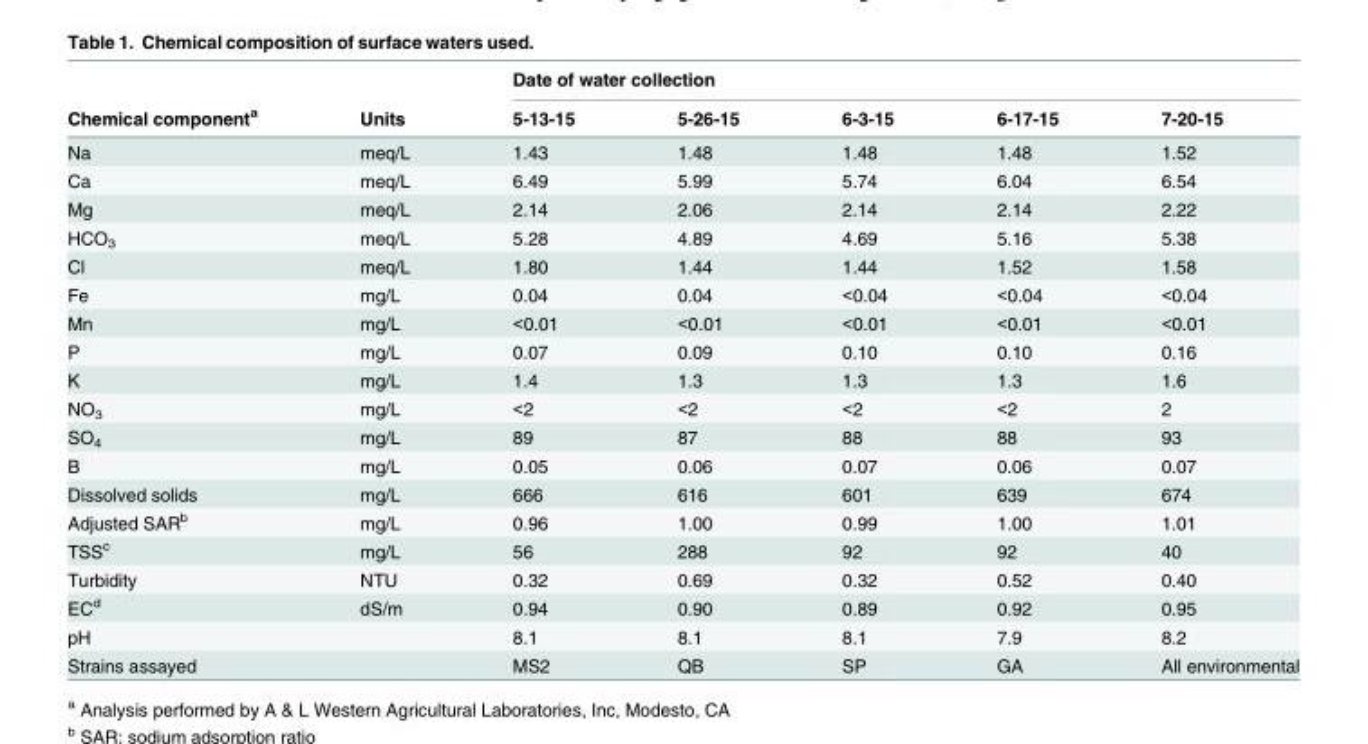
<table><thead><tr><td rowspan="2">Chemical component<sup>a</sup></td><td rowspan="2">Units</td><td colspan="5">Date of water collection</td></tr><tr><td>5-13-15</td><td>5-26-15</td><td>6-3-15</td><td>6-17-15</td><td>7-20-15</td></tr></thead><tbody><tr><td>Na</td><td>meq/L</td><td>1.43</td><td>1.48</td><td>1.48</td><td>1.48</td><td>1.52</td></tr><tr><td>Ca</td><td>meq/L</td><td>6.49</td><td>5.99</td><td>5.74</td><td>6.04</td><td>6.54</td></tr><tr><td>Mg</td><td>meq/L</td><td>2.14</td><td>2.06</td><td>2.14</td><td>2.14</td><td>2.22</td></tr><tr><td>HCO<sub>3</sub></td><td>meq/L</td><td>5.28</td><td>4.89</td><td>4.69</td><td>5.16</td><td>5.38</td></tr><tr><td>Cl</td><td>meq/L</td><td>1.80</td><td>1.44</td><td>1.44</td><td>1.52</td><td>1.58</td></tr><tr><td>Fe</td><td>mg/L</td><td>0.04</td><td>0.04</td><td>&lt;0.04</td><td>&lt;0.04</td><td>&lt;0.04</td></tr><tr><td>Mn</td><td>mg/L</td><td>&lt;0.01</td><td>&lt;0.01</td><td>&lt;0.01</td><td>&lt;0.01</td><td>&lt;0.01</td></tr><tr><td>P</td><td>mg/L</td><td>0.07</td><td>0.09</td><td>0.10</td><td>0.10</td><td>0.16</td></tr><tr><td>K</td><td>mg/L</td><td>1.4</td><td>1.3</td><td>1.3</td><td>1.3</td><td>1.6</td></tr><tr><td>NO<sub>3</sub></td><td>mg/L</td><td>&lt;2</td><td>&lt;2</td><td>&lt;2</td><td>&lt;2</td><td>2</td></tr><tr><td>SO<sub>4</sub></td><td>mg/L</td><td>89</td><td>87</td><td>88</td><td>88</td><td>93</td></tr><tr><td>B</td><td>mg/L</td><td>0.05</td><td>0.06</td><td>0.07</td><td>0.06</td><td>0.07</td></tr><tr><td>Dissolved solids</td><td>mg/L</td><td>666</td><td>616</td><td>601</td><td>639</td><td>674</td></tr><tr><td>Adjusted SAR<sup>b</sup></td><td>mg/L</td><td>0.96</td><td>1.00</td><td>0.99</td><td>1.00</td><td>1.01</td></tr><tr><td>TSS<sup>c</sup></td><td>mg/L</td><td>56</td><td>288</td><td>92</td><td>92</td><td>40</td></tr><tr><td>Turbidity</td><td>NTU</td><td>0.32</td><td>0.69</td><td>0.32</td><td>0.52</td><td>0.40</td></tr><tr><td>EC<sup>d</sup></td><td>dS/m</td><td>0.94</td><td>0.90</td><td>0.89</td><td>0.92</td><td>0.95</td></tr><tr><td>pH</td><td></td><td>8.1</td><td>8.1</td><td>8.1</td><td>7.9</td><td>8.2</td></tr><tr><td>Strains assayed</td><td></td><td>MS2</td><td>QB</td><td>SP</td><td>GA</td><td>All environmental</td></tr></tbody></table>